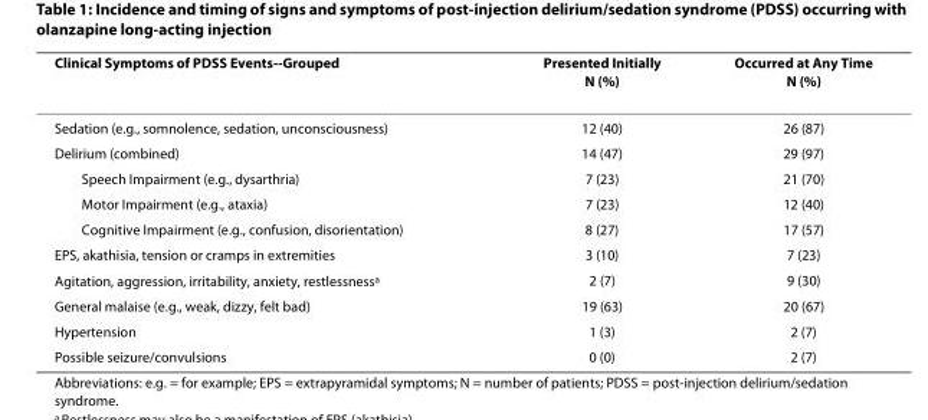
<table><thead><tr><td>Clinical Symptoms of PDSS Events--Grouped</td><td>Presented Initially N (%)</td><td>Occurred at Any Time N (%)</td></tr></thead><tbody><tr><td>Sedation (e.g., somnolence, sedation, unconsciousness)</td><td>12 (40)</td><td>26 (87)</td></tr><tr><td>Delirium (combined)</td><td>14 (47)</td><td>29 (97)</td></tr><tr><td>Speech Impairment (e.g., dysarthria)</td><td>7 (23)</td><td>21 (70)</td></tr><tr><td>Motor Impairment (e.g., ataxia)</td><td>7 (23)</td><td>12 (40)</td></tr><tr><td>Cognitive Impairment (e.g., confusion, disorientation)</td><td>8 (27)</td><td>17 (57)</td></tr><tr><td>EPS, akathisia, tension or cramps in extremities</td><td>3 (10)</td><td>7 (23)</td></tr><tr><td>Agitation, aggression, irritability, anxiety, restlessness<sup>a</sup></td><td>2 (7)</td><td>9 (30)</td></tr><tr><td>General malaise (e.g., weak, dizzy, felt bad)</td><td>19 (63)</td><td>20 (67)</td></tr><tr><td>Hypertension</td><td>1 (3)</td><td>2 (7)</td></tr><tr><td>Possible seizure/convulsions</td><td>0 (0)</td><td>2 (7)</td></tr></tbody></table>